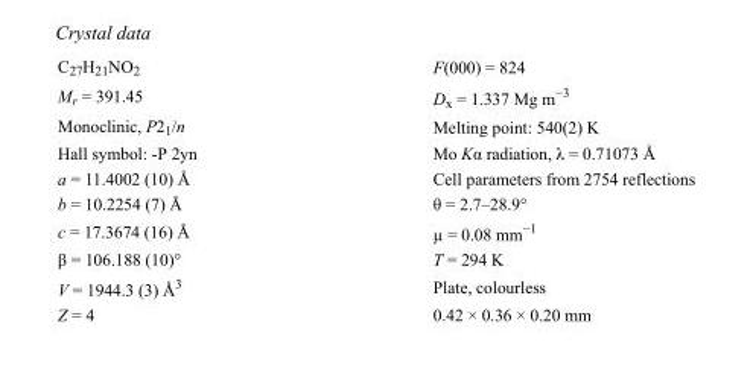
<table><tbody><tr><td>C<sub>27</sub>H<sub>21</sub>NO<sub>2</sub></td><td>F(000) = 824</td></tr><tr><td>M<sub>r</sub> = 391.45</td><td>D<sub>x</sub> = 1.337 Mg m<sup>−3</sup></td></tr><tr><td>Monoclinic, P2<sub>1</sub>/n</td><td>Melting point: 540(2) K</td></tr><tr><td>Hall symbol: -P 2yn</td><td>Mo Kα radiation, λ = 0.71073 Å</td></tr><tr><td>a = 11.4002 (10) Å</td><td>Cell parameters from 2754 reflections</td></tr><tr><td>b = 10.2254 (7) Å</td><td>θ = 2.7–28.9°</td></tr><tr><td>c = 17.3674 (16) Å</td><td>µ = 0.08 mm<sup>−1</sup></td></tr><tr><td>β = 106.188 (10)°</td><td>T = 294 K</td></tr><tr><td>V = 1944.3 (3) Å<sup>3</sup></td><td>Plate, colourless</td></tr><tr><td>Z = 4</td><td>0.42 × 0.36 × 0.20 mm</td></tr></tbody></table>